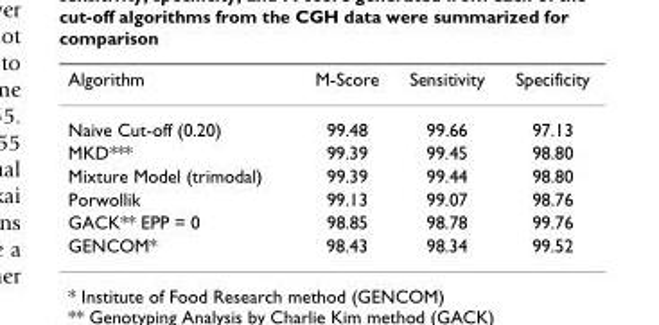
<table><thead><tr><td>Algorithm</td><td>M-Score</td><td>Sensitivity</td><td>Specificity</td></tr></thead><tbody><tr><td>Naive Cut-off (0.20)</td><td>99.48</td><td>99.66</td><td>97.13</td></tr><tr><td>MKD***</td><td>99.39</td><td>99.45</td><td>98.80</td></tr><tr><td>Mixture Model (trimodal)</td><td>99.39</td><td>99.44</td><td>98.80</td></tr><tr><td>Porwollik</td><td>99.13</td><td>99.07</td><td>98.76</td></tr><tr><td>GACK** EPP = 0</td><td>98.85</td><td>98.78</td><td>99.76</td></tr><tr><td>GENCOM*</td><td>98.43</td><td>98.34</td><td>99.52</td></tr></tbody></table>